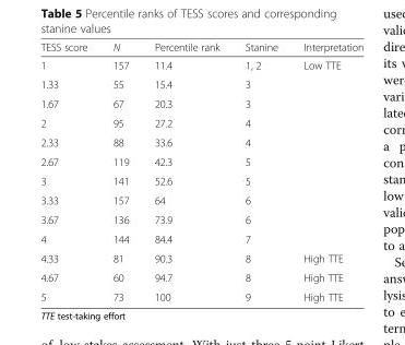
<table><thead><tr><td>TESS score</td><td>N</td><td>Percentile rank</td><td>Stanine</td><td>Interpretation</td></tr></thead><tbody><tr><td>1</td><td>157</td><td>11.4</td><td>1, 2</td><td>Low TTE</td></tr><tr><td>1.33</td><td>55</td><td>15.4</td><td>3</td><td></td></tr><tr><td>1.67</td><td>67</td><td>20.3</td><td>3</td><td></td></tr><tr><td>2</td><td>95</td><td>27.2</td><td>4</td><td></td></tr><tr><td>2.33</td><td>88</td><td>33.6</td><td>4</td><td></td></tr><tr><td>2.67</td><td>119</td><td>42.3</td><td>5</td><td></td></tr><tr><td>3</td><td>141</td><td>52.6</td><td>5</td><td></td></tr><tr><td>3.33</td><td>157</td><td>64</td><td>6</td><td></td></tr><tr><td>3.67</td><td>136</td><td>73.9</td><td>6</td><td></td></tr><tr><td>4</td><td>144</td><td>84.4</td><td>7</td><td></td></tr><tr><td>4.33</td><td>81</td><td>90.3</td><td>8</td><td>High TTE</td></tr><tr><td>4.67</td><td>60</td><td>94.7</td><td>8</td><td>High TTE</td></tr><tr><td>5</td><td>73</td><td>100</td><td>9</td><td>High TTE</td></tr></tbody></table>